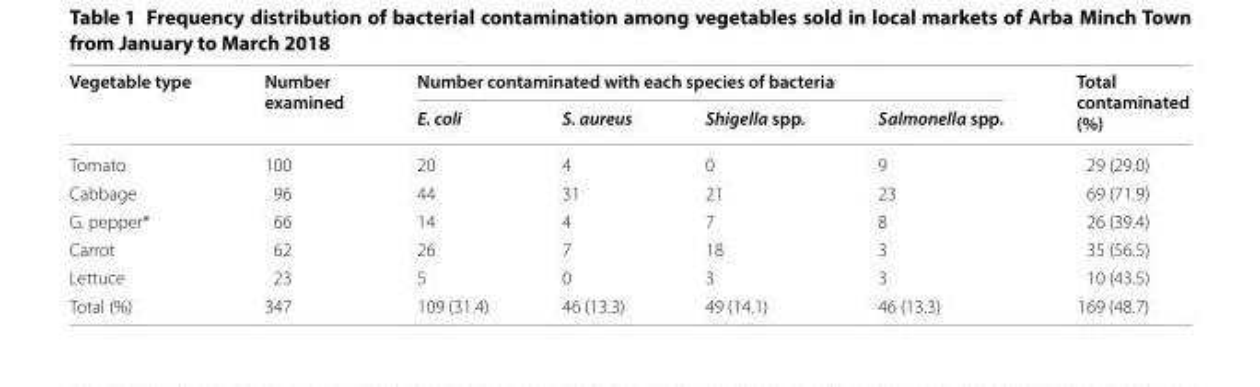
<table><thead><tr><td rowspan="2">Vegetable type</td><td rowspan="2">Number examined</td><td colspan="4">Number contaminated with each species of bacteria</td><td rowspan="2">Total contaminated (%)</td></tr><tr><td>E. coli</td><td>S. aureus</td><td>Shigella spp.</td><td>Salmonella spp.</td></tr></thead><tbody><tr><td>Tomato</td><td>100</td><td>20</td><td>4</td><td>0</td><td>9</td><td>29 (29.0)</td></tr><tr><td>Cabbage</td><td>96</td><td>44</td><td>31</td><td>21</td><td>23</td><td>69 (71.9)</td></tr><tr><td>G. pepper*</td><td>66</td><td>14</td><td>4</td><td>7</td><td>8</td><td>26 (39.4)</td></tr><tr><td>Carrot</td><td>62</td><td>26</td><td>7</td><td>18</td><td>3</td><td>35 (56.5)</td></tr><tr><td>Lettuce</td><td>23</td><td>5</td><td>0</td><td>3</td><td>3</td><td>10 (43.5)</td></tr><tr><td>Total (%)</td><td>347</td><td>109 (31.4)</td><td>46 (13.3)</td><td>49 (14.1)</td><td>46 (13.3)</td><td>169 (48.7)</td></tr></tbody></table>